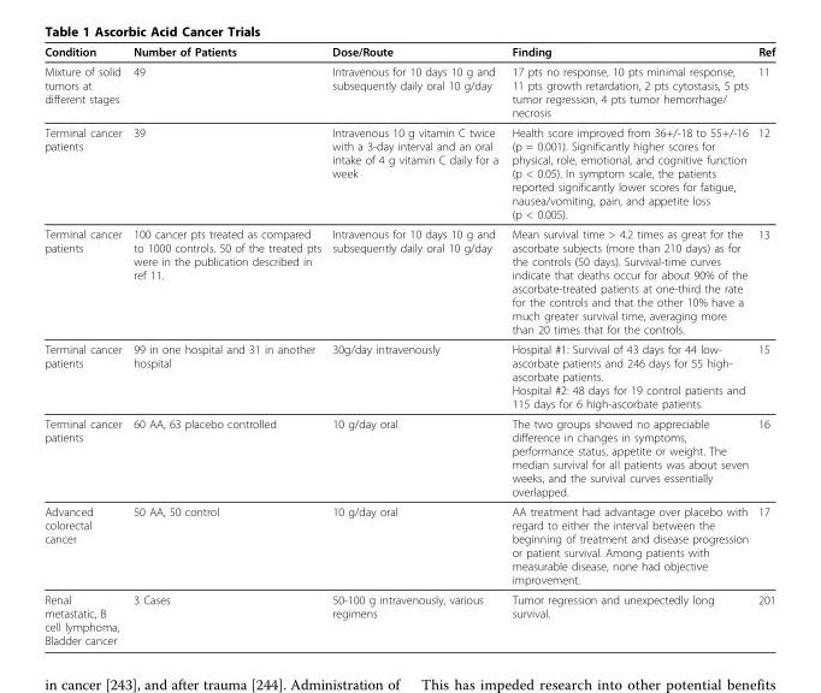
<table><thead><tr><td>Condition</td><td>Number of Patients</td><td>Dose/Route</td><td>Finding</td><td>Ref</td></tr></thead><tbody><tr><td>Mixture of solid tumors at different stages</td><td>49</td><td>Intravenous for 10 days 10 g and subsequently daily oral 10 g/day</td><td>17 pts no response, 10 pts minimal response, 11 pts growth retardation, 2 pts cytostasis, 5 pts tumor regression, 4 pts tumor hemorrhage/ necrosis</td><td>11</td></tr><tr><td>Terminal cancer patients</td><td>39</td><td>Intravenous 10 g vitamin C twice with a 3-day interval and an oral intake of 4 g vitamin C daily for a week</td><td>Health score improved from 36+/-18 to 55+/-16 (p = 0.001). Significantly higher scores for physical, role, emotional, and cognitive function (p &lt; 0.05). In symptom scale, the patients reported significantly lower scores for fatigue, nausea/vomiting, pain, and appetite loss (p &lt; 0.005).</td><td>12</td></tr><tr><td>Terminal cancer patients</td><td>100 cancer pts treated as compared to 1000 controls. 50 of the treated pts were in the publication described in ref 11.</td><td>Intravenous for 10 days 10 g and subsequently daily oral 10 g/day</td><td>Mean survival time &gt; 4.2 times as great for the ascorbate subjects (more than 210 days) as for the controls (50 days). Survival-time curves indicate that deaths occur for about 90% of the ascorbate-treated patients at one-third the rate for the controls and that the other 10% have a much greater survival time, averaging more than 20 times that for the controls.</td><td>13</td></tr><tr><td>Terminal cancer patients</td><td>99 in one hospital and 31 in another hospital</td><td>30g/day intravenously</td><td>Hospital #1: Survival of 43 days for 44 low- ascorbate patients and 246 days for 55 high- ascorbate patients. Hospital #2: 48 days for 19 control patients and 115 days for 6 high-ascorbate patients.</td><td>15</td></tr><tr><td>Terminal cancer patients</td><td>60 AA, 63 placebo controlled</td><td>10 g/day oral</td><td>The two groups showed no appreciable difference in changes in symptoms, performance status, appetite or weight. The median survival for all patients was about seven weeks, and the survival curves essentially overlapped.</td><td>16</td></tr><tr><td>Advanced colorectal cancer</td><td>50 AA, 50 control</td><td>10 g/day oral</td><td>AA treatment had advantage over placebo with regard to either the interval between the beginning of treatment and disease progression or patient survival. Among patients with measurable disease, none had objective improvement.</td><td>17</td></tr><tr><td>Renal metastatic, B cell lymphoma, Bladder cancer</td><td>3 Cases</td><td>50-100 g intravenously, various regimens</td><td>Tumor regression and unexpectedly long survival.</td><td>201</td></tr></tbody></table>